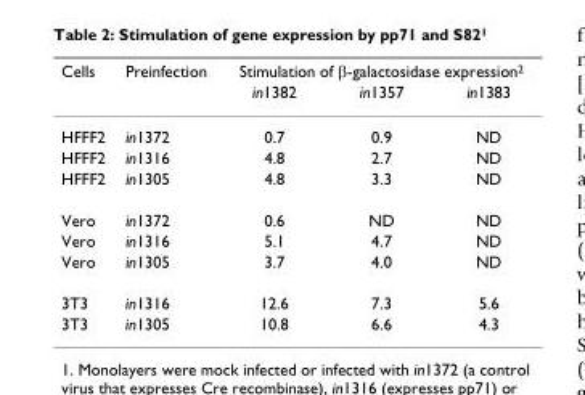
<table><thead><tr><td rowspan="2">Cells</td><td rowspan="2">Preinfection</td><td colspan="3">Stimulation of β-galactosidase expression<sup>2</sup></td></tr><tr><td>in1382</td><td>in1357</td><td>in1383</td></tr></thead><tbody><tr><td>HFFF2</td><td>in1372</td><td>0.7</td><td>0.9</td><td>ND</td></tr><tr><td>HFFF2</td><td>in1316</td><td>4.8</td><td>2.7</td><td>ND</td></tr><tr><td>HFFF2</td><td>in1305</td><td>4.8</td><td>3.3</td><td>ND</td></tr><tr><td>Vero</td><td>in1372</td><td>0.6</td><td>ND</td><td>ND</td></tr><tr><td>Vero</td><td>in1316</td><td>5.1</td><td>4.7</td><td>ND</td></tr><tr><td>Vero</td><td>in1305</td><td>3.7</td><td>4.0</td><td>ND</td></tr><tr><td>3T3</td><td>in1316</td><td>12.6</td><td>7.3</td><td>5.6</td></tr><tr><td>3T3</td><td>in1305</td><td>10.8</td><td>6.6</td><td>4.3</td></tr></tbody></table>